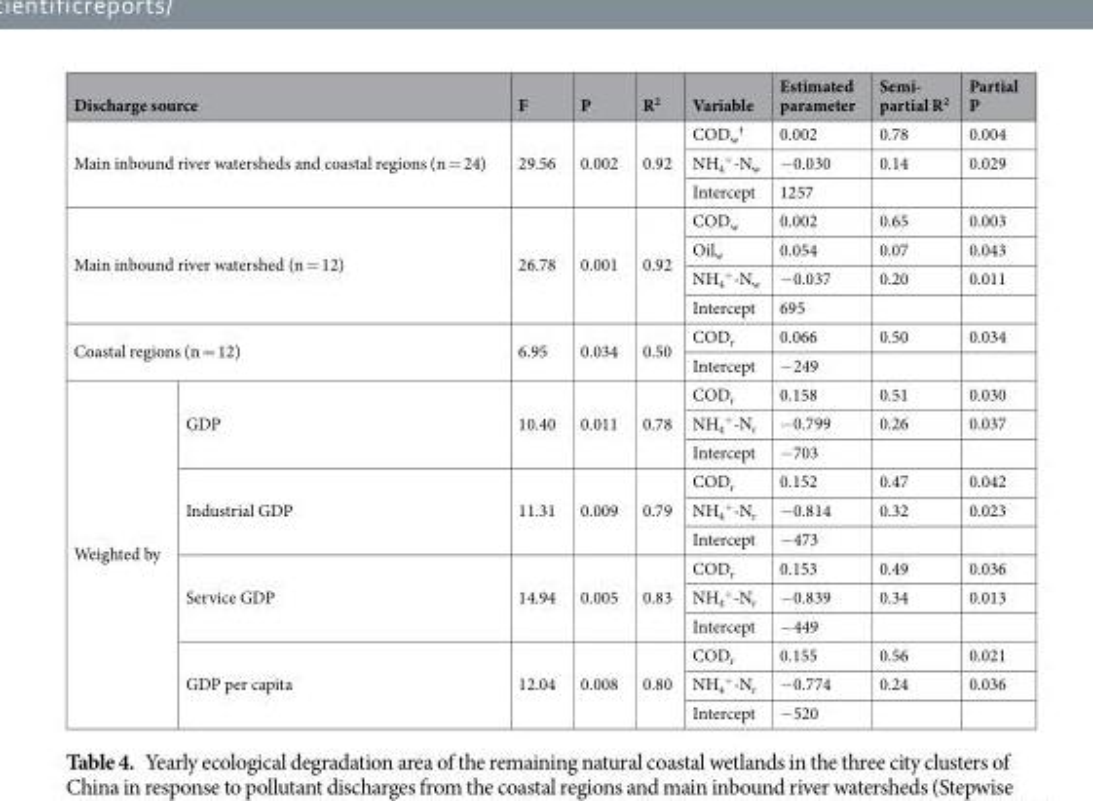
<table><thead><tr><td colspan="2">Discharge source</td><td>F</td><td>P</td><td>R<sup>2</sup></td><td>Variable</td><td>Estimated parameter</td><td>Semi- partial R<sup>2</sup></td><td>Partial P</td></tr></thead><tbody><tr><td rowspan="3" colspan="2">Main inbound river watersheds and coastal regions (n = 24)</td><td rowspan="3">29.56</td><td rowspan="3">0.002</td><td rowspan="3">0.92</td><td>COD<sub>w</sub> <sup>†</sup></td><td>0.002</td><td>0.78</td><td>0.004</td></tr><tr><td>NH<sub>4</sub> <sup>+</sup>-N<sub>w</sub></td><td>−0.030</td><td>0.14</td><td>0.029</td></tr><tr><td>Intercept</td><td>1257</td><td></td><td></td></tr><tr><td rowspan="4" colspan="2">Main inbound river watershed (n = 12)</td><td rowspan="4">26.78</td><td rowspan="4">0.001</td><td rowspan="4">0.92</td><td>COD<sub>w</sub></td><td>0.002</td><td>0.65</td><td>0.003</td></tr><tr><td>Oil<sub>w</sub></td><td>0.054</td><td>0.07</td><td>0.043</td></tr><tr><td>NH<sub>4</sub> <sup>+</sup>-N<sub>w</sub></td><td>−0.037</td><td>0.20</td><td>0.011</td></tr><tr><td>Intercept</td><td>695</td><td></td><td></td></tr><tr><td rowspan="2" colspan="2">Coastal regions (n = 12)</td><td rowspan="2">6.95</td><td rowspan="2">0.034</td><td rowspan="2">0.50</td><td>COD<sub>r</sub></td><td>0.066</td><td>0.50</td><td>0.034</td></tr><tr><td>Intercept</td><td>−249</td><td></td><td></td></tr><tr><td rowspan="12">Weighted by</td><td rowspan="3">GDP</td><td rowspan="3">10.40</td><td rowspan="3">0.011</td><td rowspan="3">0.78</td><td>COD<sub>r</sub></td><td>0.158</td><td>0.51</td><td>0.030</td></tr><tr><td>NH<sub>4</sub> <sup>+</sup>-N<sub>r</sub></td><td>−0.799</td><td>0.26</td><td>0.037</td></tr><tr><td>Intercept</td><td>−703</td><td></td><td></td></tr><tr><td rowspan="3">Industrial GDP</td><td rowspan="3">11.31</td><td rowspan="3">0.009</td><td rowspan="3">0.79</td><td>COD<sub>r</sub></td><td>0.152</td><td>0.47</td><td>0.042</td></tr><tr><td>NH<sub>4</sub> <sup>+</sup>-N<sub>r</sub></td><td>−0.814</td><td>0.32</td><td>0.023</td></tr><tr><td>Intercept</td><td>−473</td><td></td><td></td></tr><tr><td rowspan="3">Service GDP</td><td rowspan="3">14.94</td><td rowspan="3">0.005</td><td rowspan="3">0.83</td><td>COD<sub>r</sub></td><td>0.153</td><td>0.49</td><td>0.036</td></tr><tr><td>NH<sub>4</sub> <sup>+</sup>-N<sub>r</sub></td><td>−0.839</td><td>0.34</td><td>0.013</td></tr><tr><td>Intercept</td><td>−449</td><td></td><td></td></tr><tr><td rowspan="3">GDP per capita</td><td rowspan="3">12.04</td><td rowspan="3">0.008</td><td rowspan="3">0.80</td><td>COD<sub>r</sub></td><td>0.155</td><td>0.56</td><td>0.021</td></tr><tr><td>NH<sub>4</sub> <sup>+</sup>-N<sub>r</sub></td><td>−0.774</td><td>0.24</td><td>0.036</td></tr><tr><td>Intercept</td><td>−520</td><td></td><td></td></tr></tbody></table>